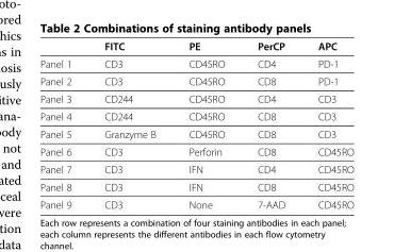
<table><thead><tr><td></td><td>FITC</td><td>PE</td><td>PerCP</td><td>APC</td></tr></thead><tbody><tr><td>Panel 1</td><td>CD3</td><td>CD45RO</td><td>CD4</td><td>PD-1</td></tr><tr><td>Panel 2</td><td>CD3</td><td>CD45RO</td><td>CD8</td><td>PD-1</td></tr><tr><td>Panel 3</td><td>CD244</td><td>CD45RO</td><td>CD4</td><td>CD3</td></tr><tr><td>Panel 4</td><td>CD244</td><td>CD45RO</td><td>CD8</td><td>CD3</td></tr><tr><td>Panel 5</td><td>Granzyme B</td><td>CD45RO</td><td>CD8</td><td>CD3</td></tr><tr><td>Panel 6</td><td>CD3</td><td>Perforin</td><td>CD8</td><td>CD45RO</td></tr><tr><td>Panel 7</td><td>CD3</td><td>IFN</td><td>CD4</td><td>CD45RO</td></tr><tr><td>Panel 8</td><td>CD3</td><td>IFN</td><td>CD8</td><td>CD45RO</td></tr><tr><td>Panel 9</td><td>CD3</td><td>None</td><td>7-AAD</td><td>CD45RO</td></tr></tbody></table>